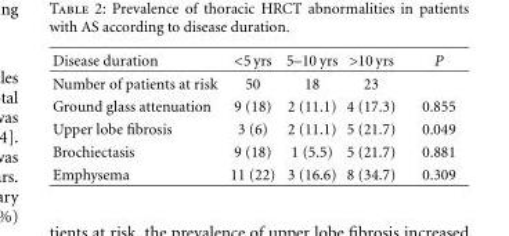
<table><thead><tr><td>Disease duration</td><td>&lt;5 yrs</td><td>5–10 yrs</td><td>&gt;10 yrs</td><td>P</td></tr></thead><tbody><tr><td>Number of patients at risk</td><td>50</td><td>18</td><td>23</td><td></td></tr><tr><td>Ground glass attenuation</td><td>9 (18)</td><td>2 (11.1)</td><td>4 (17.3)</td><td>0.855</td></tr><tr><td>Upper lobe fibrosis</td><td>3 (6)</td><td>2 (11.1)</td><td>5 (21.7)</td><td>0.049</td></tr><tr><td>Brochiectasis</td><td>9 (18)</td><td>1 (5.5)</td><td>5 (21.7)</td><td>0.881</td></tr><tr><td>Emphysema</td><td>11 (22)</td><td>3 (16.6)</td><td>8 (34.7)</td><td>0.309</td></tr></tbody></table>